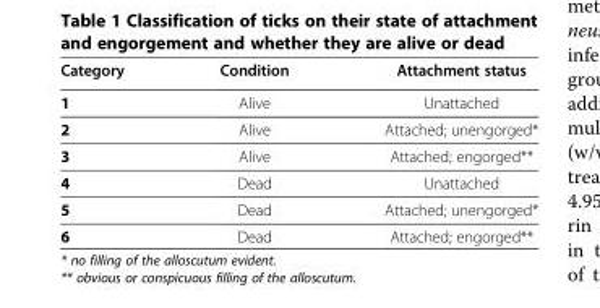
<table><thead><tr><td>Category</td><td>Condition</td><td>Attachment status</td></tr></thead><tbody><tr><td>1</td><td>Alive</td><td>Unattached</td></tr><tr><td>2</td><td>Alive</td><td>Attached; unengorged*</td></tr><tr><td>3</td><td>Alive</td><td>Attached; engorged**</td></tr><tr><td>4</td><td>Dead</td><td>Unattached</td></tr><tr><td>5</td><td>Dead</td><td>Attached; unengorged*</td></tr><tr><td>6</td><td>Dead</td><td>Attached; engorged**</td></tr></tbody></table>